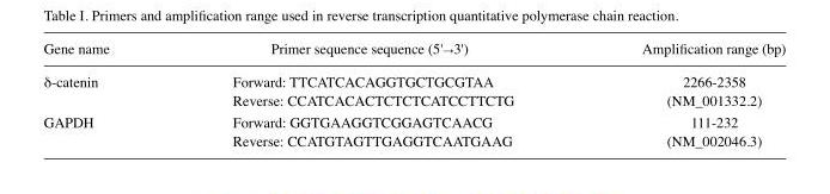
<table><thead><tr><td>Gene name</td><td>Primer sequence sequence (5&#x27;→3&#x27;)</td><td>Amplification range (bp)</td></tr></thead><tbody><tr><td rowspan="2">δ‑catenin</td><td>Forward: TTCATCACAGGTGCTGCGTAA</td><td>2266‑2358</td></tr><tr><td>Reverse: CCATCACACTCTCTCATCCTTCTG</td><td>(NM_001332.2)</td></tr><tr><td rowspan="2">GAPDH</td><td>Forward: GGTGAAGGTCGGAGTCAACG</td><td>111‑232</td></tr><tr><td>Reverse: CCATGTAGTTGAGGTCAATGAAG</td><td>(NM_002046.3)</td></tr></tbody></table>